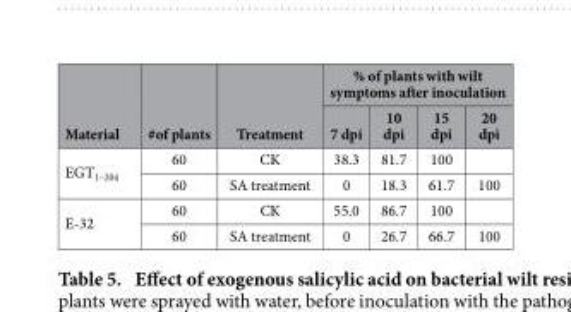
<table><thead><tr><td rowspan="2">Material</td><td rowspan="2">#of plants</td><td rowspan="2">Treatment</td><td colspan="4">% of plants with wilt symptoms after inoculation</td></tr><tr><td>7 dpi</td><td>10 dpi</td><td>15 dpi</td><td>20 dpi</td></tr></thead><tbody><tr><td rowspan="2">EGT<sub>1–204</sub></td><td>60</td><td>CK</td><td>38.3</td><td>81.7</td><td>100</td><td></td></tr><tr><td>60</td><td>SA treatment</td><td>0</td><td>18.3</td><td>61.7</td><td>100</td></tr><tr><td rowspan="2">E-32</td><td>60</td><td>CK</td><td>55.0</td><td>86.7</td><td>100</td><td></td></tr><tr><td>60</td><td>SA treatment</td><td>0</td><td>26.7</td><td>66.7</td><td>100</td></tr></tbody></table>